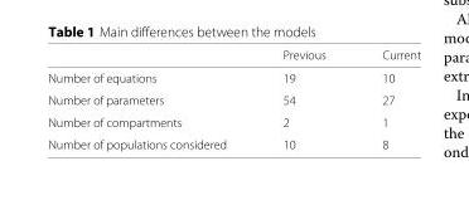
<table><thead><tr><td></td><td>Previous</td><td>Current</td></tr></thead><tbody><tr><td>Number of equations</td><td>19</td><td>10</td></tr><tr><td>Number of parameters</td><td>54</td><td>27</td></tr><tr><td>Number of compartments</td><td>2</td><td>1</td></tr><tr><td>Number of populations considered</td><td>10</td><td>8</td></tr></tbody></table>